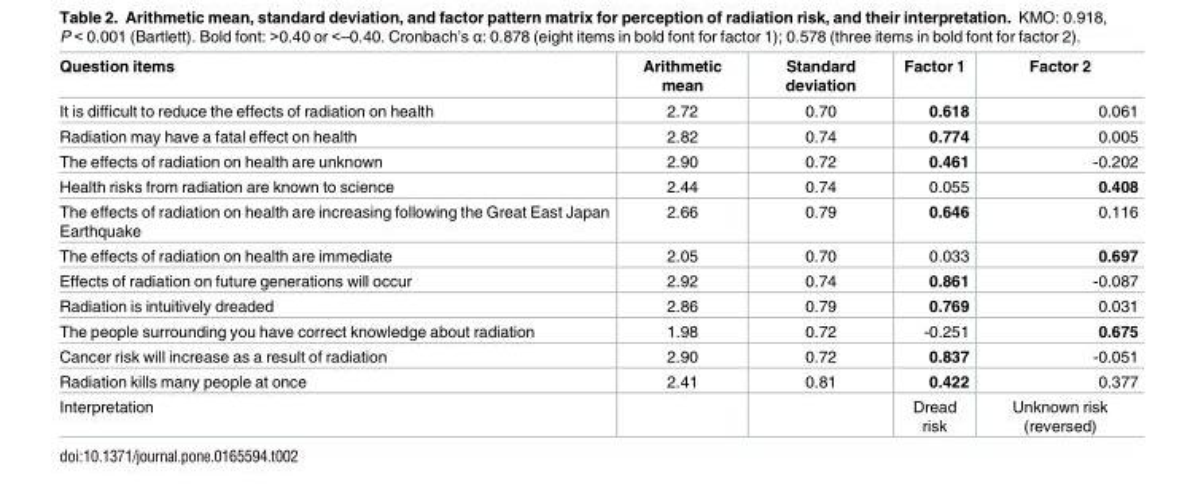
<table><thead><tr><td>Question items</td><td>Arithmetic mean</td><td>Standard deviation</td><td>Factor 1</td><td>Factor 2</td></tr></thead><tbody><tr><td>It is difficult to reduce the effects of radiation on health</td><td>2.72</td><td>0.70</td><td>0.618</td><td>0.061</td></tr><tr><td>Radiation may have a fatal effect on health</td><td>2.82</td><td>0.74</td><td>0.774</td><td>0.005</td></tr><tr><td>The effects of radiation on health are unknown</td><td>2.90</td><td>0.72</td><td>0.461</td><td>-0.202</td></tr><tr><td>Health risks from radiation are known to science</td><td>2.44</td><td>0.74</td><td>0.055</td><td>0.408</td></tr><tr><td>The effects of radiation on health are increasing following the Great East Japan Earthquake</td><td>2.66</td><td>0.79</td><td>0.646</td><td>0.116</td></tr><tr><td>The effects of radiation on health are immediate</td><td>2.05</td><td>0.70</td><td>0.033</td><td>0.697</td></tr><tr><td>Effects of radiation on future generations will occur</td><td>2.92</td><td>0.74</td><td>0.861</td><td>-0.087</td></tr><tr><td>Radiation is intuitively dreaded</td><td>2.86</td><td>0.79</td><td>0.769</td><td>0.031</td></tr><tr><td>The people surrounding you have correct knowledge about radiation</td><td>1.98</td><td>0.72</td><td>-0.251</td><td>0.675</td></tr><tr><td>Cancer risk will increase as a result of radiation</td><td>2.90</td><td>0.72</td><td>0.837</td><td>-0.051</td></tr><tr><td>Radiation kills many people at once</td><td>2.41</td><td>0.81</td><td>0.422</td><td>0.377</td></tr><tr><td>Interpretation</td><td></td><td></td><td>Dread risk</td><td>Unknown risk (reversed)</td></tr></tbody></table>